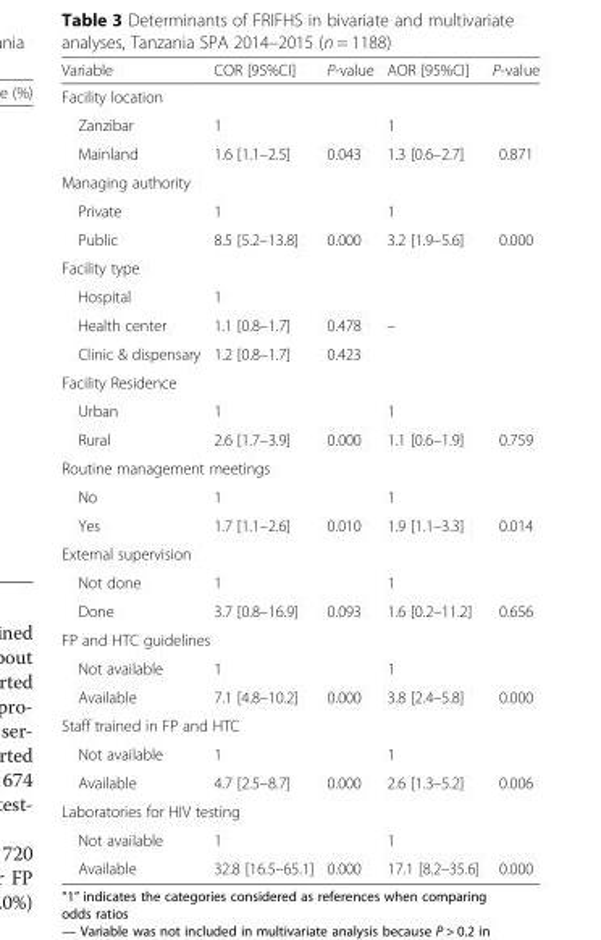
<table><thead><tr><td>Variable</td><td>COR [95%CI]</td><td>P-value</td><td>AOR [95%CI]</td><td>P-value</td></tr></thead><tbody><tr><td colspan="5">Facility location</td></tr><tr><td>Zanzibar</td><td>1</td><td></td><td>1</td><td></td></tr><tr><td>Mainland</td><td>1.6 [1.1–2.5]</td><td>0.043</td><td>1.3 [0.6–2.7]</td><td>0.871</td></tr><tr><td colspan="5">Managing authority</td></tr><tr><td>Private</td><td>1</td><td></td><td>1</td><td></td></tr><tr><td>Public</td><td>8.5 [5.2–13.8]</td><td>0.000</td><td>3.2 [1.9–5.6]</td><td>0.000</td></tr><tr><td colspan="5">Facility type</td></tr><tr><td>Hospital</td><td>1</td><td></td><td></td><td></td></tr><tr><td>Health center</td><td>1.1 [0.8–1.7]</td><td>0.478</td><td>–</td><td></td></tr><tr><td>Clinic &amp; dispensary</td><td>1.2 [0.8–1.7]</td><td>0.423</td><td></td><td></td></tr><tr><td colspan="5">Facility Residence</td></tr><tr><td>Urban</td><td>1</td><td></td><td>1</td><td></td></tr><tr><td>Rural</td><td>2.6 [1.7–3.9]</td><td>0.000</td><td>1.1 [0.6–1.9]</td><td>0.759</td></tr><tr><td colspan="5">Routine management meetings</td></tr><tr><td>No</td><td>1</td><td></td><td>1</td><td></td></tr><tr><td>Yes</td><td>1.7 [1.1–2.6]</td><td>0.010</td><td>1.9 [1.1–3.3]</td><td>0.014</td></tr><tr><td colspan="5">External supervision</td></tr><tr><td>Not done</td><td>1</td><td></td><td>1</td><td></td></tr><tr><td>Done</td><td>3.7 [0.8–16.9]</td><td>0.093</td><td>1.6 [0.2–11.2]</td><td>0.656</td></tr><tr><td colspan="5">FP and HTC guidelines</td></tr><tr><td>Not available</td><td>1</td><td></td><td>1</td><td></td></tr><tr><td>Available</td><td>7.1 [4.8–10.2]</td><td>0.000</td><td>3.8 [2.4–5.8]</td><td>0.000</td></tr><tr><td colspan="5">Staff trained in FP and HTC</td></tr><tr><td>Not available</td><td>1</td><td></td><td>1</td><td></td></tr><tr><td>Available</td><td>4.7 [2.5–8.7]</td><td>0.000</td><td>2.6 [1.3–5.2]</td><td>0.006</td></tr><tr><td colspan="5">Laboratories for HIV testing</td></tr><tr><td>Not available</td><td>1</td><td></td><td>1</td><td></td></tr><tr><td>Available</td><td>32.8 [16.5–65.1]</td><td>0.000</td><td>17.1 [8.2–35.6]</td><td>0.000</td></tr></tbody></table>